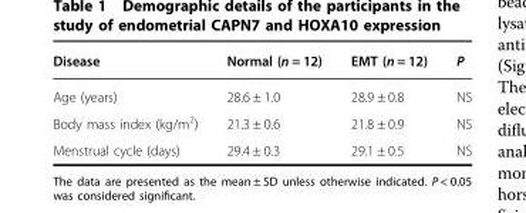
<table><thead><tr><td>Disease</td><td>Normal (n = 12)</td><td>EMT (n = 12)</td><td>P</td></tr></thead><tbody><tr><td>Age (years)</td><td>28.6 ± 1.0</td><td>28.9 ± 0.8</td><td>NS</td></tr><tr><td>Body mass index (kg/m<sup>2</sup>)</td><td>21.3 ± 0.6</td><td>21.8 ± 0.9</td><td>NS</td></tr><tr><td>Menstrual cycle (days)</td><td>29.4 ± 0.3</td><td>29.1 ± 0.5</td><td>NS</td></tr></tbody></table>